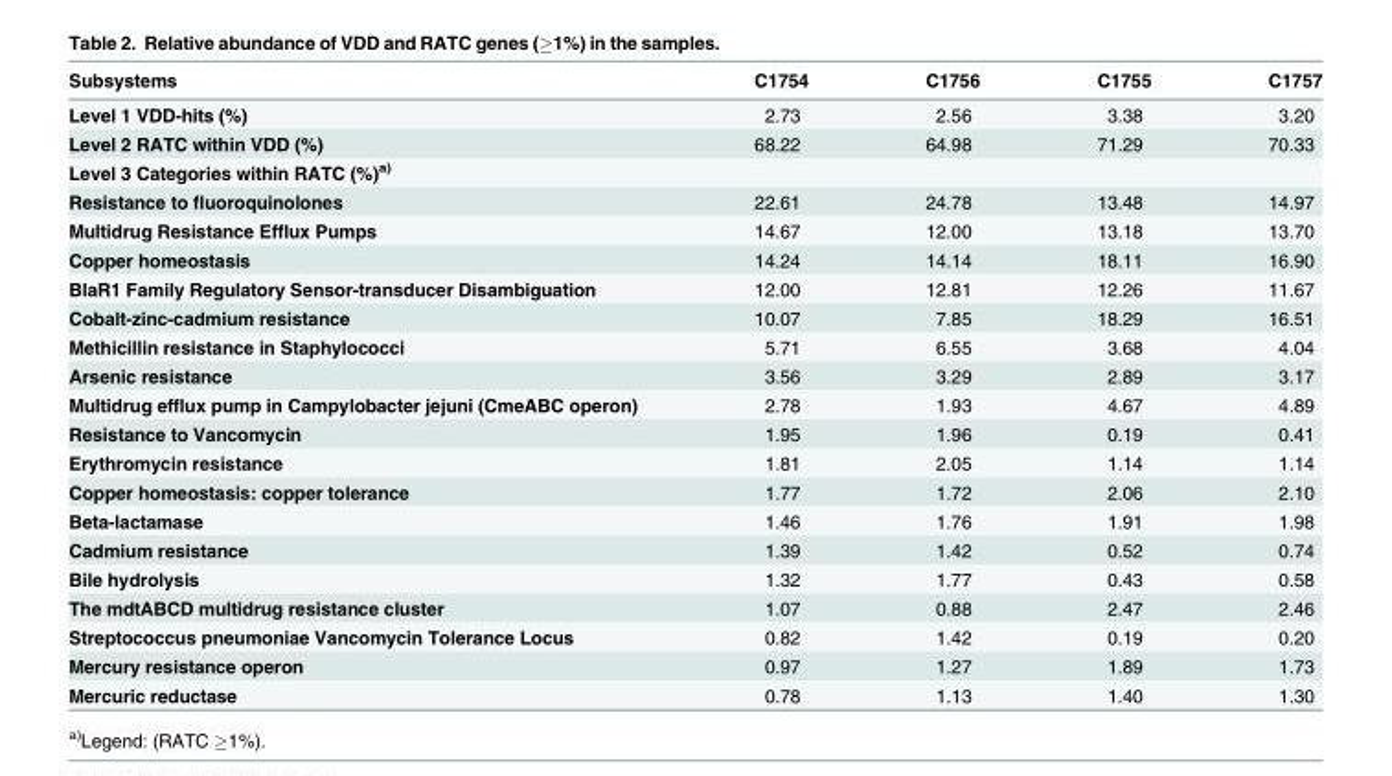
<table><thead><tr><td>Subsystems</td><td>C1754</td><td>C1756</td><td>C1755</td><td>C1757</td></tr></thead><tbody><tr><td>Level 1 VDD-hits (%)</td><td>2.73</td><td>2.56</td><td>3.38</td><td>3.20</td></tr><tr><td>Level 2 RATC within VDD (%)</td><td>68.22</td><td>64.98</td><td>71.29</td><td>70.33</td></tr><tr><td colspan="5">Level 3 Categories within RATC (%)<sup>a)</sup></td></tr><tr><td>Resistance to fluoroquinolones</td><td>22.61</td><td>24.78</td><td>13.48</td><td>14.97</td></tr><tr><td>Multidrug Resistance Efflux Pumps</td><td>14.67</td><td>12.00</td><td>13.18</td><td>13.70</td></tr><tr><td>Copper homeostasis</td><td>14.24</td><td>14.14</td><td>18.11</td><td>16.90</td></tr><tr><td>BlaR1 Family Regulatory Sensor-transducer Disambiguation</td><td>12.00</td><td>12.81</td><td>12.26</td><td>11.67</td></tr><tr><td>Cobalt-zinc-cadmium resistance</td><td>10.07</td><td>7.85</td><td>18.29</td><td>16.51</td></tr><tr><td>Methicillin resistance in Staphylococci</td><td>5.71</td><td>6.55</td><td>3.68</td><td>4.04</td></tr><tr><td>Arsenic resistance</td><td>3.56</td><td>3.29</td><td>2.89</td><td>3.17</td></tr><tr><td>Multidrug efflux pump in Campylobacter jejuni (CmeABC operon)</td><td>2.78</td><td>1.93</td><td>4.67</td><td>4.89</td></tr><tr><td>Resistance to Vancomycin</td><td>1.95</td><td>1.96</td><td>0.19</td><td>0.41</td></tr><tr><td>Erythromycin resistance</td><td>1.81</td><td>2.05</td><td>1.14</td><td>1.14</td></tr><tr><td>Copper homeostasis: copper tolerance</td><td>1.77</td><td>1.72</td><td>2.06</td><td>2.10</td></tr><tr><td>Beta-lactamase</td><td>1.46</td><td>1.76</td><td>1.91</td><td>1.98</td></tr><tr><td>Cadmium resistance</td><td>1.39</td><td>1.42</td><td>0.52</td><td>0.74</td></tr><tr><td>Bile hydrolysis</td><td>1.32</td><td>1.77</td><td>0.43</td><td>0.58</td></tr><tr><td>The mdtABCD multidrug resistance cluster</td><td>1.07</td><td>0.88</td><td>2.47</td><td>2.46</td></tr><tr><td>Streptococcus pneumoniae Vancomycin Tolerance Locus</td><td>0.82</td><td>1.42</td><td>0.19</td><td>0.20</td></tr><tr><td>Mercury resistance operon</td><td>0.97</td><td>1.27</td><td>1.89</td><td>1.73</td></tr><tr><td>Mercuric reductase</td><td>0.78</td><td>1.13</td><td>1.40</td><td>1.30</td></tr></tbody></table>